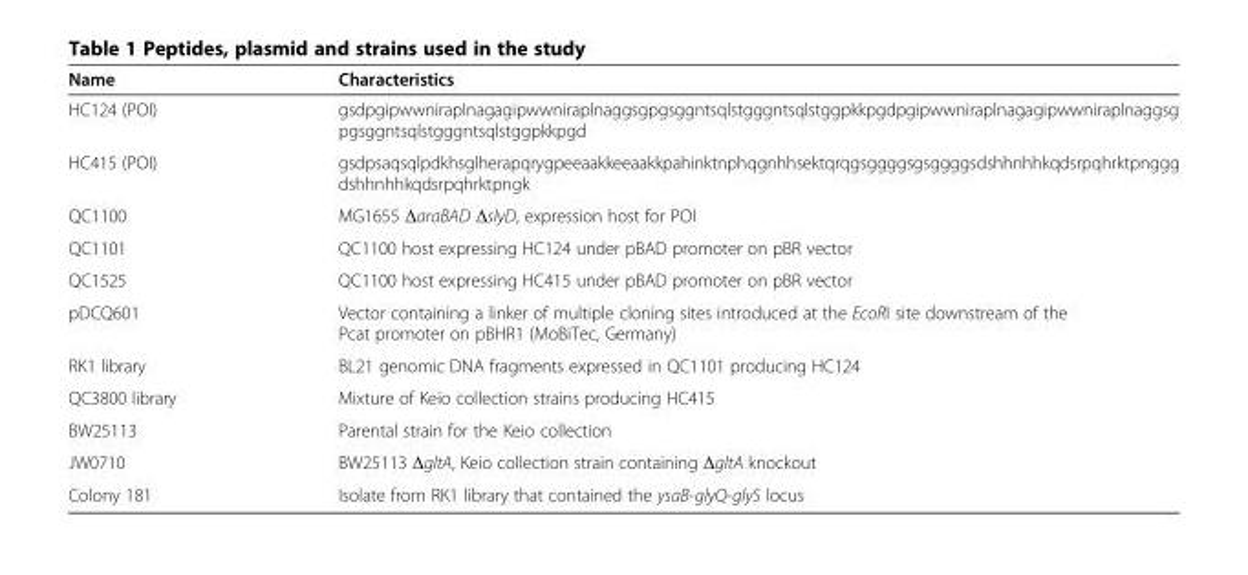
<table><thead><tr><td>Name</td><td>Characteristics</td></tr></thead><tbody><tr><td>HC124 (POI)</td><td>gsdpgipwwniraplnagagipwwniraplnaggsgpgsggntsqlstgggntsqlstggpkkpgdpgipwwniraplnagagipwwniraplnaggsg pgsggntsqlstgggntsqlstggpkkpgd</td></tr><tr><td>HC415 (POI)</td><td>gsdpsaqsqlpdkhsglherapqrygpeeaakkeeaakkpahinktnphqgnhhsektqrqgsggggsgsggggsdshhnhhkqdsrpqhrktpnggg dshhnhhkqdsrpqhrktpngk</td></tr><tr><td>QC1100</td><td>MG1655 ΔaraBAD ΔslyD, expression host for POI</td></tr><tr><td>QC1101</td><td>QC1100 host expressing HC124 under pBAD promoter on pBR vector</td></tr><tr><td>QC1525</td><td>QC1100 host expressing HC415 under pBAD promoter on pBR vector</td></tr><tr><td>pDCQ601</td><td>Vector containing a linker of multiple cloning sites introduced at the EcoRI site downstream of the Pcat promoter on pBHR1 (MoBiTec, Germany)</td></tr><tr><td>RK1 library</td><td>BL21 genomic DNA fragments expressed in QC1101 producing HC124</td></tr><tr><td>QC3800 library</td><td>Mixture of Keio collection strains producing HC415</td></tr><tr><td>BW25113</td><td>Parental strain for the Keio collection</td></tr><tr><td>JW0710</td><td>BW25113 ΔgltA, Keio collection strain containing ΔgltA knockout</td></tr><tr><td>Colony 181</td><td>Isolate from RK1 library that contained the ysaB-glyQ-glyS locus</td></tr></tbody></table>